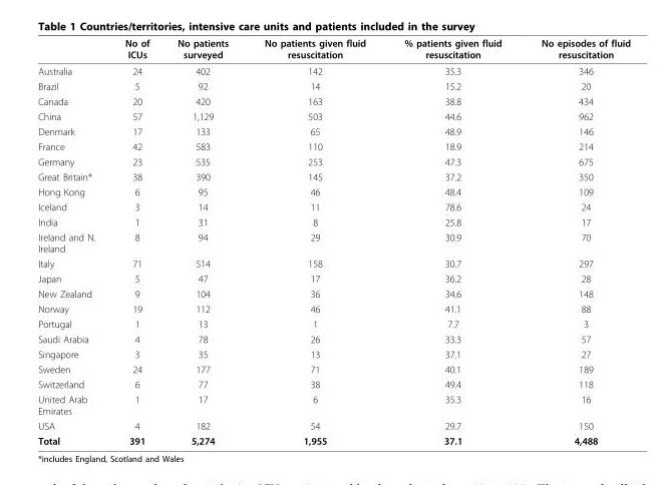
<table><thead><tr><td></td><td>No of ICUs</td><td>No patients surveyed</td><td>No patients given fluid resuscitation</td><td>% patients given fluid resuscitation</td><td>No episodes of fluid resuscitation</td></tr></thead><tbody><tr><td>Australia</td><td>24</td><td>402</td><td>142</td><td>35.3</td><td>346</td></tr><tr><td>Brazil</td><td>5</td><td>92</td><td>14</td><td>15.2</td><td>20</td></tr><tr><td>Canada</td><td>20</td><td>420</td><td>163</td><td>38.8</td><td>434</td></tr><tr><td>China</td><td>57</td><td>1,129</td><td>503</td><td>44.6</td><td>962</td></tr><tr><td>Denmark</td><td>17</td><td>133</td><td>65</td><td>48.9</td><td>146</td></tr><tr><td>France</td><td>42</td><td>583</td><td>110</td><td>18.9</td><td>214</td></tr><tr><td>Germany</td><td>23</td><td>535</td><td>253</td><td>47.3</td><td>675</td></tr><tr><td>Great Britain*</td><td>38</td><td>390</td><td>145</td><td>37.2</td><td>350</td></tr><tr><td>Hong Kong</td><td>6</td><td>95</td><td>46</td><td>48.4</td><td>109</td></tr><tr><td>Iceland</td><td>3</td><td>14</td><td>11</td><td>78.6</td><td>24</td></tr><tr><td>India</td><td>1</td><td>31</td><td>8</td><td>25.8</td><td>17</td></tr><tr><td>Ireland and N. Ireland</td><td>8</td><td>94</td><td>29</td><td>30.9</td><td>70</td></tr><tr><td>Italy</td><td>71</td><td>514</td><td>158</td><td>30.7</td><td>297</td></tr><tr><td>Japan</td><td>5</td><td>47</td><td>17</td><td>36.2</td><td>28</td></tr><tr><td>New Zealand</td><td>9</td><td>104</td><td>36</td><td>34.6</td><td>148</td></tr><tr><td>Norway</td><td>19</td><td>112</td><td>46</td><td>41.1</td><td>88</td></tr><tr><td>Portugal</td><td>1</td><td>13</td><td>1</td><td>7.7</td><td>3</td></tr><tr><td>Saudi Arabia</td><td>4</td><td>78</td><td>26</td><td>33.3</td><td>57</td></tr><tr><td>Singapore</td><td>3</td><td>35</td><td>13</td><td>37.1</td><td>27</td></tr><tr><td>Sweden</td><td>24</td><td>177</td><td>71</td><td>40.1</td><td>189</td></tr><tr><td>Switzerland</td><td>6</td><td>77</td><td>38</td><td>49.4</td><td>118</td></tr><tr><td>United Arab Emirates</td><td>1</td><td>17</td><td>6</td><td>35.3</td><td>16</td></tr><tr><td>USA</td><td>4</td><td>182</td><td>54</td><td>29.7</td><td>150</td></tr><tr><td>Total</td><td>391</td><td>5,274</td><td>1,955</td><td>37.1</td><td>4,488</td></tr></tbody></table>